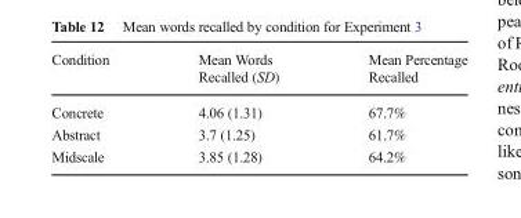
<table><thead><tr><td>Condition</td><td>Mean Words Recalled (SD)</td><td>Mean Percentage Recalled</td></tr></thead><tbody><tr><td>Concrete</td><td>4.06 (1.31)</td><td>67.7%</td></tr><tr><td>Abstract</td><td>3.7 (1.25)</td><td>61.7%</td></tr><tr><td>Midscale</td><td>3.85 (1.28)</td><td>64.2%</td></tr></tbody></table>